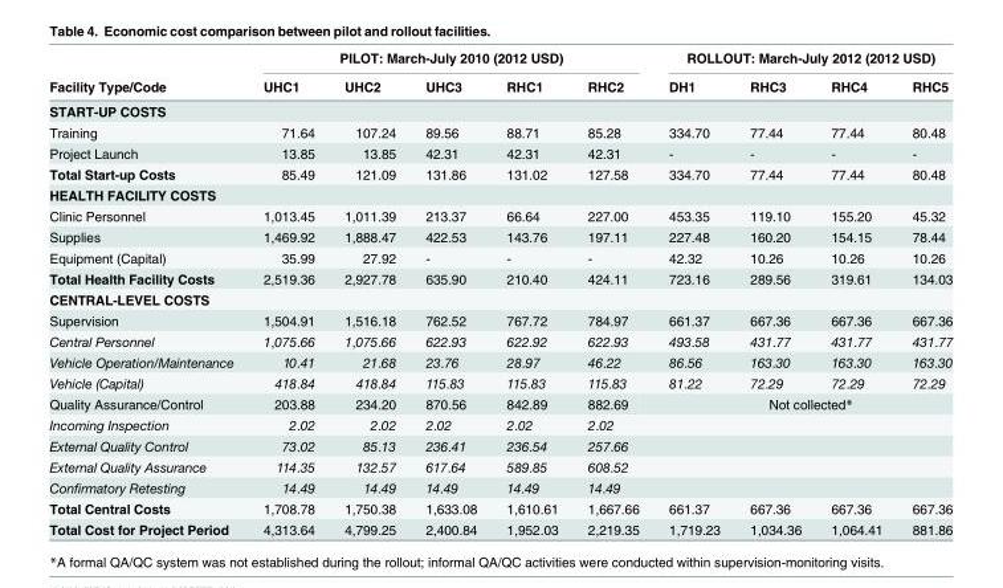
<table><thead><tr><td rowspan="2">Facility Type/Code</td><td colspan="5">PILOT: March-July 2010 (2012 USD)</td><td colspan="4">ROLLOUT: March-July 2012 (2012 USD)</td></tr><tr><td>UHC1</td><td>UHC2</td><td>UHC3</td><td>RHC1</td><td>RHC2</td><td>DH1</td><td>RHC3</td><td>RHC4</td><td>RHC5</td></tr></thead><tbody><tr><td colspan="10">START-UP COSTS</td></tr><tr><td>Training</td><td>71.64</td><td>107.24</td><td>89.56</td><td>88.71</td><td>85.28</td><td>334.70</td><td>77.44</td><td>77.44</td><td>80.48</td></tr><tr><td>Project Launch</td><td>13.85</td><td>13.85</td><td>42.31</td><td>42.31</td><td>42.31</td><td>-</td><td>-</td><td>-</td><td>-</td></tr><tr><td>Total Start-up Costs</td><td>85.49</td><td>121.09</td><td>131.86</td><td>131.02</td><td>127.58</td><td>334.70</td><td>77.44</td><td>77.44</td><td>80.48</td></tr><tr><td colspan="10">HEALTH FACILITY COSTS</td></tr><tr><td>Clinic Personnel</td><td>1,013.45</td><td>1,011.39</td><td>213.37</td><td>66.64</td><td>227.00</td><td>453.35</td><td>119.10</td><td>155.20</td><td>45.32</td></tr><tr><td>Supplies</td><td>1,469.92</td><td>1,888.47</td><td>422.53</td><td>143.76</td><td>197.11</td><td>227.48</td><td>160.20</td><td>154.15</td><td>78.44</td></tr><tr><td>Equipment (Capital)</td><td>35.99</td><td>27.92</td><td>-</td><td>-</td><td>-</td><td>42.32</td><td>10.26</td><td>10.26</td><td>10.26</td></tr><tr><td>Total Health Facility Costs</td><td>2,519.36</td><td>2,927.78</td><td>635.90</td><td>210.40</td><td>424.11</td><td>723.16</td><td>289.56</td><td>319.61</td><td>134.03</td></tr><tr><td colspan="10">CENTRAL-LEVEL COSTS</td></tr><tr><td>Supervision</td><td>1,504.91</td><td>1,516.18</td><td>762.52</td><td>767.72</td><td>784.97</td><td>661.37</td><td>667.36</td><td>667.36</td><td>667.36</td></tr><tr><td>Central Personnel</td><td>1,075.66</td><td>1,075.66</td><td>622.93</td><td>622.92</td><td>622.93</td><td>493.58</td><td>431.77</td><td>431.77</td><td>431.77</td></tr><tr><td>Vehicle Operation/Maintenance</td><td>10.41</td><td>21.68</td><td>23.76</td><td>28.97</td><td>46.22</td><td>86.56</td><td>163.30</td><td>163.30</td><td>163.30</td></tr><tr><td>Vehicle (Capital)</td><td>418.84</td><td>418.84</td><td>115.83</td><td>115.83</td><td>115.83</td><td>81.22</td><td>72.29</td><td>72.29</td><td>72.29</td></tr><tr><td>Quality Assurance/Control</td><td>203.88</td><td>234.20</td><td>870.56</td><td>842.89</td><td>882.69</td><td colspan="4">Not collected*</td></tr><tr><td>Incoming Inspection</td><td>2.02</td><td>2.02</td><td>2.02</td><td>2.02</td><td>2.02</td><td></td><td></td><td></td><td></td></tr><tr><td>External Quality Control</td><td>73.02</td><td>85.13</td><td>236.41</td><td>236.54</td><td>257.66</td><td></td><td></td><td></td><td></td></tr><tr><td>External Quality Assurance</td><td>114.35</td><td>132.57</td><td>617.64</td><td>589.85</td><td>608.52</td><td></td><td></td><td></td><td></td></tr><tr><td>Confirmatory Retesting</td><td>14.49</td><td>14.49</td><td>14.49</td><td>14.49</td><td>14.49</td><td></td><td></td><td></td><td></td></tr><tr><td>Total Central Costs</td><td>1,708.78</td><td>1,750.38</td><td>1,633.08</td><td>1,610.61</td><td>1,667.66</td><td>661.37</td><td>667.36</td><td>667.36</td><td>667.36</td></tr><tr><td>Total Cost for Project Period</td><td>4,313.64</td><td>4,799.25</td><td>2,400.84</td><td>1,952.03</td><td>2,219.35</td><td>1,719.23</td><td>1,034.36</td><td>1,064.41</td><td>881.86</td></tr></tbody></table>